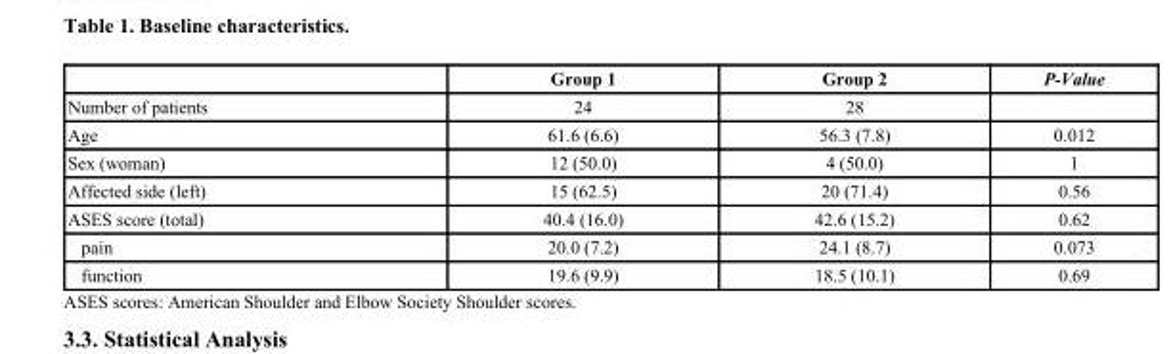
<table><thead><tr><td></td><td>Group 1</td><td>Group 2</td><td>P-Value</td></tr></thead><tbody><tr><td>Number of patients</td><td>24</td><td>28</td><td></td></tr><tr><td>Age</td><td>61.6 (6.6)</td><td>56.3 (7.8)</td><td>0.012</td></tr><tr><td>Sex (woman)</td><td>12 (50.0)</td><td>4 (50.0)</td><td>1</td></tr><tr><td>Affected side (left)</td><td>15 (62.5)</td><td>20 (71.4)</td><td>0.56</td></tr><tr><td>ASES score (total)</td><td>40.4 (16.0)</td><td>42.6 (15.2)</td><td>0.62</td></tr><tr><td>pain</td><td>20.0 (7.2)</td><td>24.1 (8.7)</td><td>0.073</td></tr><tr><td>function</td><td>19.6 (9.9)</td><td>18.5 (10.1)</td><td>0.69</td></tr></tbody></table>